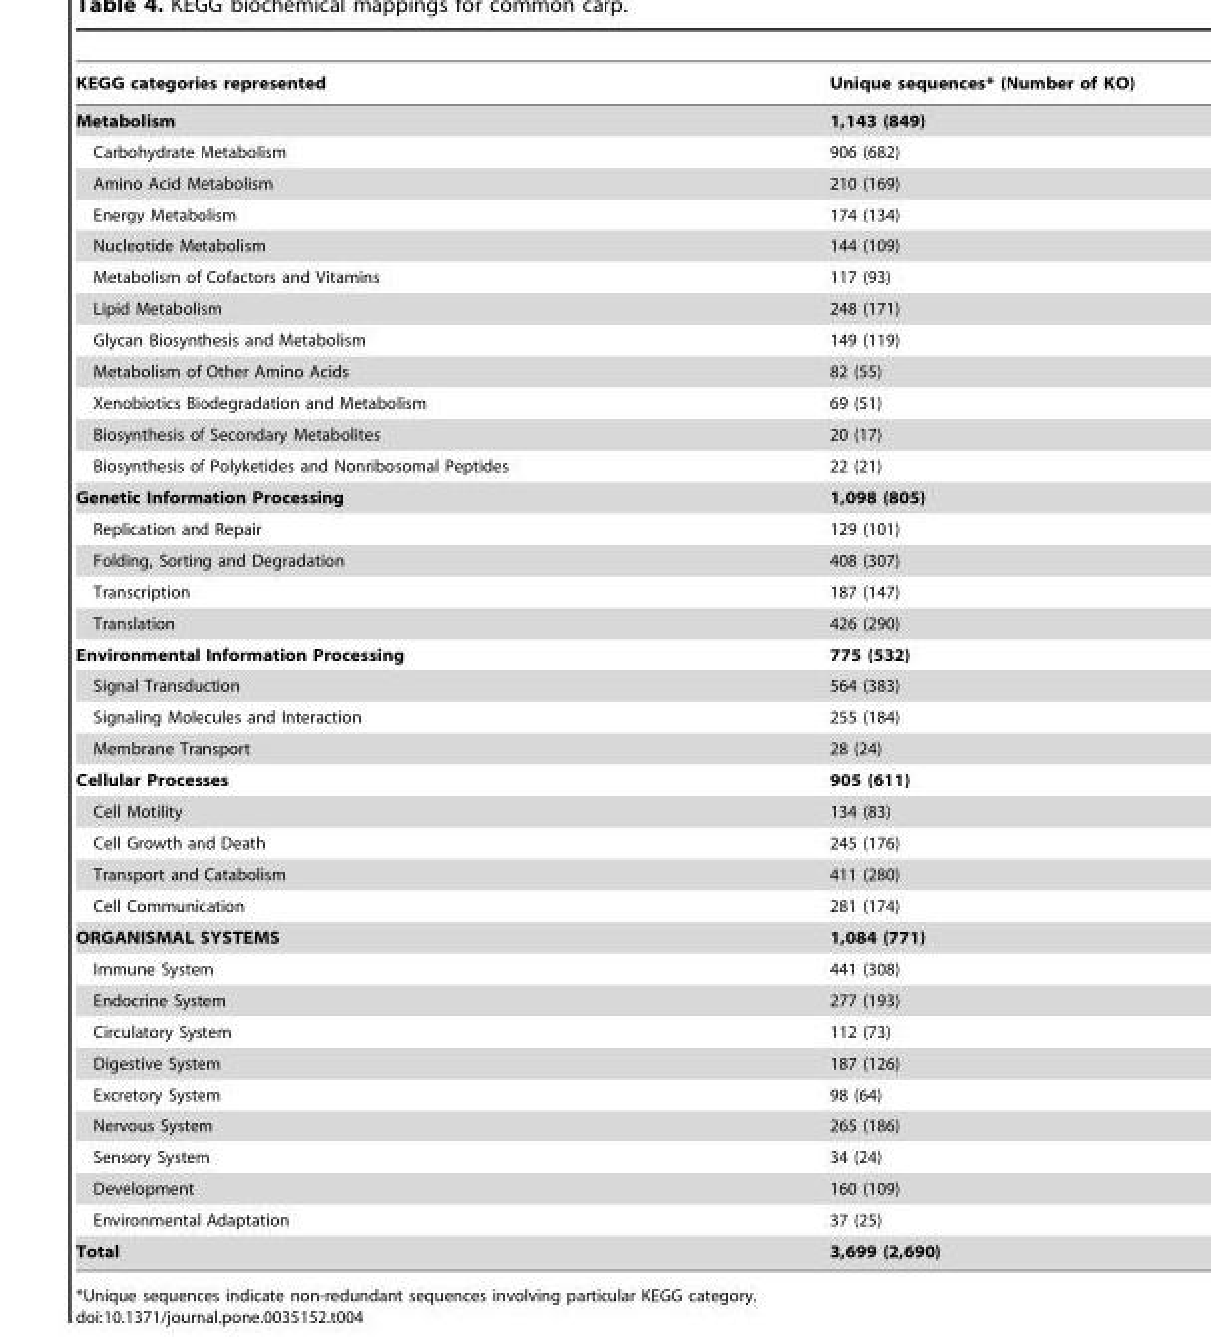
<table><thead><tr><td>KEGG categories represented</td><td>Unique sequences* (Number of KO)</td></tr></thead><tbody><tr><td>Metabolism</td><td>1,143 (849)</td></tr><tr><td>Carbohydrate Metabolism</td><td>906 (682)</td></tr><tr><td>Amino Acid Metabolism</td><td>210 (169)</td></tr><tr><td>Energy Metabolism</td><td>174 (134)</td></tr><tr><td>Nucleotide Metabolism</td><td>144 (109)</td></tr><tr><td>Metabolism of Cofactors and Vitamins</td><td>117 (93)</td></tr><tr><td>Lipid Metabolism</td><td>248 (171)</td></tr><tr><td>Glycan Biosynthesis and Metabolism</td><td>149 (119)</td></tr><tr><td>Metabolism of Other Amino Acids</td><td>82 (55)</td></tr><tr><td>Xenobiotics Biodegradation and Metabolism</td><td>69 (51)</td></tr><tr><td>Biosynthesis of Secondary Metabolites</td><td>20 (17)</td></tr><tr><td>Biosynthesis of Polyketides and Nonribosomal Peptides</td><td>22 (21)</td></tr><tr><td>Genetic Information Processing</td><td>1,098 (805)</td></tr><tr><td>Replication and Repair</td><td>129 (101)</td></tr><tr><td>Folding, Sorting and Degradation</td><td>408 (307)</td></tr><tr><td>Transcription</td><td>187 (147)</td></tr><tr><td>Translation</td><td>426 (290)</td></tr><tr><td>Environmental Information Processing</td><td>775 (532)</td></tr><tr><td>Signal Transduction</td><td>564 (383)</td></tr><tr><td>Signaling Molecules and Interaction</td><td>255 (184)</td></tr><tr><td>Membrane Transport</td><td>28 (24)</td></tr><tr><td>Cellular Processes</td><td>905 (611)</td></tr><tr><td>Cell Motility</td><td>134 (83)</td></tr><tr><td>Cell Growth and Death</td><td>245 (176)</td></tr><tr><td>Transport and Catabolism</td><td>411 (280)</td></tr><tr><td>Cell Communication</td><td>281 (174)</td></tr><tr><td>ORGANISMAL SYSTEMS</td><td>1,084 (771)</td></tr><tr><td>Immune System</td><td>441 (308)</td></tr><tr><td>Endocrine System</td><td>277 (193)</td></tr><tr><td>Circulatory System</td><td>112 (73)</td></tr><tr><td>Digestive System</td><td>187 (126)</td></tr><tr><td>Excretory System</td><td>98 (64)</td></tr><tr><td>Nervous System</td><td>265 (186)</td></tr><tr><td>Sensory System</td><td>34 (24)</td></tr><tr><td>Development</td><td>160 (109)</td></tr><tr><td>Environmental Adaptation</td><td>37 (25)</td></tr><tr><td>Total</td><td>3,699 (2,690)</td></tr></tbody></table>